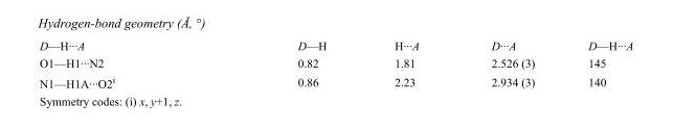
<table><tbody><tr><td>D—H···A</td><td>D—H</td><td>H···A</td><td>D···A</td><td>D—H···A</td></tr><tr><td>O1—H1···N2</td><td>0.82</td><td>1.81</td><td>2.526 (3)</td><td>145</td></tr><tr><td>N1—H1A···O2<sup>i</sup></td><td>0.86</td><td>2.23</td><td>2.934 (3)</td><td>140</td></tr></tbody></table>